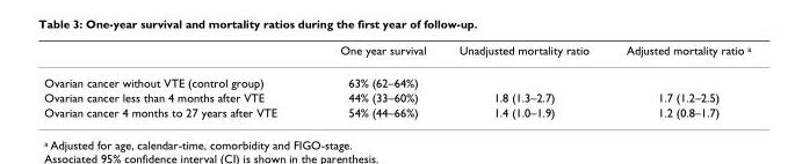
<table><thead><tr><td></td><td>One year survival</td><td>Unadjusted mortality ratio</td><td>Adjusted mortality ratio a</td></tr></thead><tbody><tr><td>Ovarian cancer without VTE (control group)</td><td>63% (62–64%)</td><td></td><td></td></tr><tr><td>Ovarian cancer less than 4 months after VTE</td><td>44% (33–60%)</td><td>1.8 (1.3–2.7)</td><td>1.7 (1.2–2.5)</td></tr><tr><td>Ovarian cancer 4 months to 27 years after VTE</td><td>54% (44–66%)</td><td>1.4 (1.0–1.9)</td><td>1.2 (0.8–1.7)</td></tr></tbody></table>